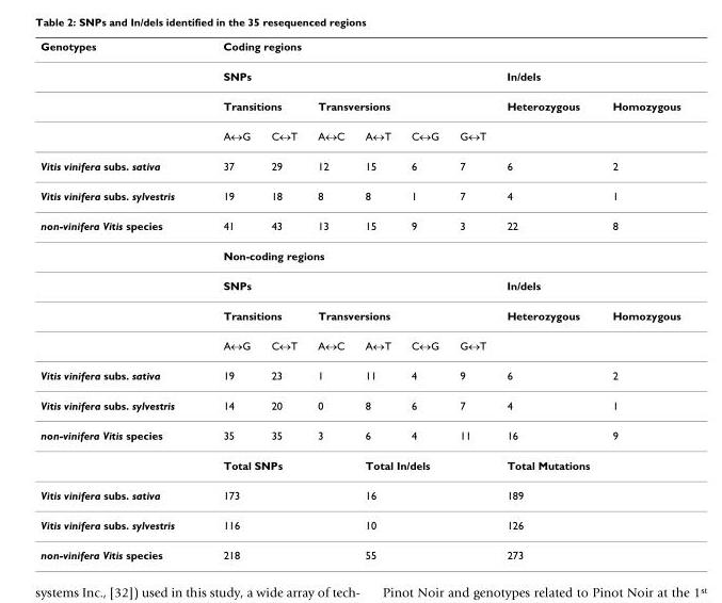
<table><thead><tr><td rowspan="4">Genotypes</td><td colspan="8">Coding regions</td></tr><tr><td colspan="6">SNPs</td><td colspan="2">In/dels</td></tr><tr><td colspan="2">Transitions</td><td colspan="4">Transversions</td><td rowspan="2">Heterozygous</td><td rowspan="2">Homozygous</td></tr><tr><td>A↔G</td><td>C↔T</td><td>A↔C</td><td>A↔T</td><td>C↔G</td><td>G↔T</td></tr></thead><tbody><tr><td>Vitis vinifera subs. sativa</td><td>37</td><td>29</td><td>12</td><td>15</td><td>6</td><td>7</td><td>6</td><td>2</td></tr><tr><td>Vitis vinifera subs. sylvestris</td><td>19</td><td>18</td><td>8</td><td>8</td><td>1</td><td>7</td><td>4</td><td>1</td></tr><tr><td rowspan="5">non-vinifera Vitis species</td><td>41</td><td>43</td><td>13</td><td>15</td><td>9</td><td>3</td><td>22</td><td>8</td></tr><tr><td colspan="8">Non-coding regions</td></tr><tr><td colspan="6">SNPs</td><td colspan="2">In/dels</td></tr><tr><td colspan="2">Transitions</td><td colspan="4">Transversions</td><td>Heterozygous</td><td>Homozygous</td></tr><tr><td>A↔G</td><td>C↔T</td><td>A↔C</td><td>A↔T</td><td>C↔G</td><td>G↔T</td><td></td><td></td></tr><tr><td>Vitis vinifera subs. sativa</td><td>19</td><td>23</td><td>1</td><td>11</td><td>4</td><td>9</td><td>6</td><td>2</td></tr><tr><td>Vitis vinifera subs. sylvestris</td><td>14</td><td>20</td><td>0</td><td>8</td><td>6</td><td>7</td><td>4</td><td>1</td></tr><tr><td rowspan="2">non-vinifera Vitis species</td><td>35</td><td>35</td><td>3</td><td>6</td><td>4</td><td>11</td><td>16</td><td>9</td></tr><tr><td colspan="3">Total SNPs</td><td colspan="3">Total In/dels</td><td colspan="2">Total Mutations</td></tr><tr><td>Vitis vinifera subs. sativa</td><td>173</td><td></td><td></td><td>16</td><td></td><td></td><td>189</td><td></td></tr><tr><td>Vitis vinifera subs. sylvestris</td><td>116</td><td></td><td></td><td>10</td><td></td><td></td><td>126</td><td></td></tr><tr><td>non-vinifera Vitis species</td><td>218</td><td></td><td></td><td>55</td><td></td><td></td><td>273</td><td></td></tr></tbody></table>